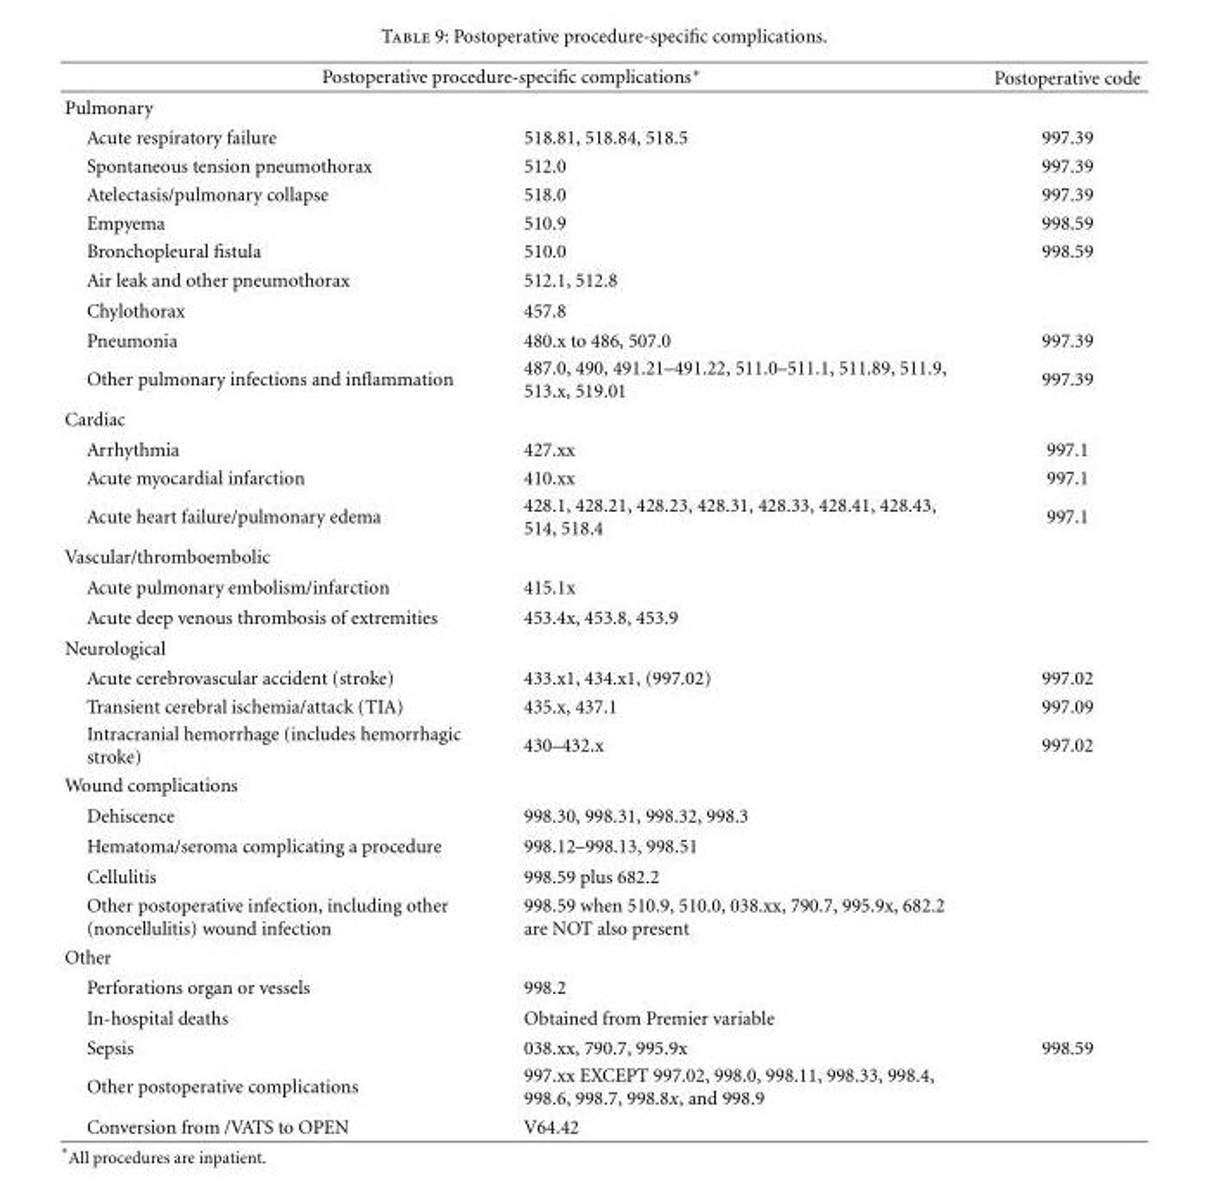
<table><thead><tr><td colspan="2">Postoperative procedure-specific complications∗</td><td rowspan="2">Postoperative code</td></tr><tr><td>Pulmonary</td><td></td></tr></thead><tbody><tr><td>Acute respiratory failure</td><td>518.81, 518.84, 518.5</td><td>997.39</td></tr><tr><td>Spontaneous tension pneumothorax</td><td>512.0</td><td>997.39</td></tr><tr><td>Atelectasis/pulmonary collapse</td><td>518.0</td><td>997.39</td></tr><tr><td>Empyema</td><td>510.9</td><td>998.59</td></tr><tr><td>Bronchopleural fistula</td><td>510.0</td><td>998.59</td></tr><tr><td>Air leak and other pneumothorax</td><td>512.1, 512.8</td><td></td></tr><tr><td>Chylothorax</td><td>457.8</td><td></td></tr><tr><td>Pneumonia</td><td>480.x to 486, 507.0</td><td>997.39</td></tr><tr><td>Other pulmonary infections and inflammation</td><td>487.0, 490, 491.21–491.22, 511.0–511.1, 511.89, 511.9, 513.x, 519.01</td><td>997.39</td></tr><tr><td colspan="3">Cardiac</td></tr><tr><td>Arrhythmia</td><td>427.xx</td><td>997.1</td></tr><tr><td>Acute myocardial infarction</td><td>410.xx</td><td>997.1</td></tr><tr><td>Acute heart failure/pulmonary edema</td><td>428.1, 428.21, 428.23, 428.31, 428.33, 428.41, 428.43, 514, 518.4</td><td>997.1</td></tr><tr><td colspan="3">Vascular/thromboembolic</td></tr><tr><td>Acute pulmonary embolism/infarction</td><td>415.1x</td><td></td></tr><tr><td>Acute deep venous thrombosis of extremities</td><td>453.4x, 453.8, 453.9</td><td></td></tr><tr><td colspan="3">Neurological</td></tr><tr><td>Acute cerebrovascular accident (stroke)</td><td>433.x1, 434.x1, (997.02)</td><td>997.02</td></tr><tr><td>Transient cerebral ischemia/attack (TIA)</td><td>435.x, 437.1</td><td>997.09</td></tr><tr><td>Intracranial hemorrhage (includes hemorrhagic stroke)</td><td>430–432.x</td><td>997.02</td></tr><tr><td colspan="3">Wound complications</td></tr><tr><td>Dehiscence</td><td>998.30, 998.31, 998.32, 998.3</td><td></td></tr><tr><td>Hematoma/seroma complicating a procedure</td><td>998.12–998.13, 998.51</td><td></td></tr><tr><td>Cellulitis</td><td>998.59 plus 682.2</td><td></td></tr><tr><td>Other postoperative infection, including other (noncellulitis) wound infection</td><td>998.59 when 510.9, 510.0, 038.xx, 790.7, 995.9x, 682.2 are NOT also present</td><td></td></tr><tr><td colspan="3">Other</td></tr><tr><td>Perforations organ or vessels</td><td>998.2</td><td></td></tr><tr><td>In-hospital deaths</td><td>Obtained from Premier variable</td><td></td></tr><tr><td>Sepsis</td><td>038.xx, 790.7, 995.9x</td><td>998.59</td></tr><tr><td>Other postoperative complications</td><td>997.xx EXCEPT 997.02, 998.0, 998.11, 998.33, 998.4, 998.6, 998.7, 998.8x, and 998.9</td><td></td></tr><tr><td>Conversion from /VATS to OPEN</td><td>V64.42</td><td></td></tr></tbody></table>